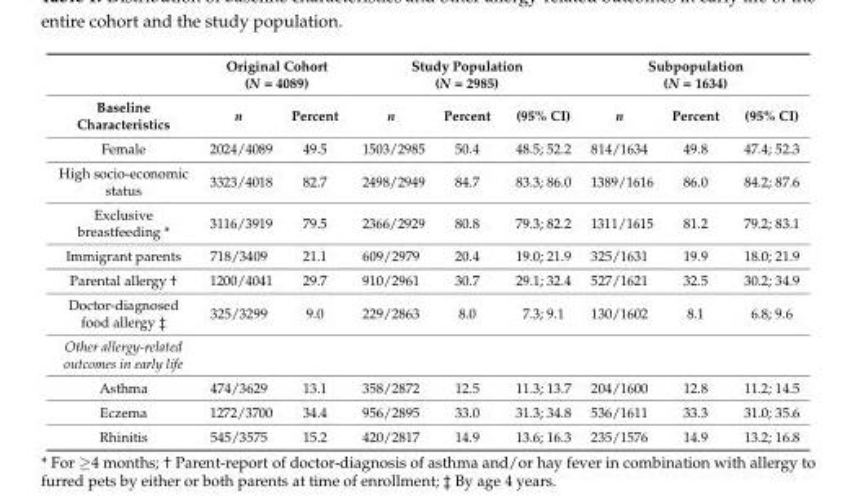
<table><thead><tr><td rowspan="2">Baseline Characteristics</td><td colspan="2">Original Cohort (N = 4089)</td><td colspan="3">Study Population (N = 2985)</td><td colspan="3">Subpopulation (N = 1634)</td></tr><tr><td>n</td><td>Percent</td><td>n</td><td>Percent</td><td>(95% CI)</td><td>n</td><td>Percent</td><td>(95% CI)</td></tr></thead><tbody><tr><td>Female</td><td>2024/4089</td><td>49.5</td><td>1503/2985</td><td>50.4</td><td>48.5; 52.2</td><td>814/1634</td><td>49.8</td><td>47.4; 52.3</td></tr><tr><td>High socio-economic status</td><td>3323/4018</td><td>82.7</td><td>2498/2949</td><td>84.7</td><td>83.3; 86.0</td><td>1389/1616</td><td>86.0</td><td>84.2; 87.6</td></tr><tr><td>Exclusive breastfeeding *</td><td>3116/3919</td><td>79.5</td><td>2366/2929</td><td>80.8</td><td>79.3; 82.2</td><td>1311/1615</td><td>81.2</td><td>79.2; 83.1</td></tr><tr><td>Immigrant parents</td><td>718/3409</td><td>21.1</td><td>609/2979</td><td>20.4</td><td>19.0; 21.9</td><td>325/1631</td><td>19.9</td><td>18.0; 21.9</td></tr><tr><td>Parental allergy †</td><td>1200/4041</td><td>29.7</td><td>910/2961</td><td>30.7</td><td>29.1; 32.4</td><td>527/1621</td><td>32.5</td><td>30.2; 34.9</td></tr><tr><td>Doctor-diagnosed food allergy ‡</td><td>325/3299</td><td>9.0</td><td>229/2863</td><td>8.0</td><td>7.3; 9.1</td><td>130/1602</td><td>8.1</td><td>6.8; 9.6</td></tr><tr><td colspan="9">Other allergy-related outcomes in early life</td></tr><tr><td>Asthma</td><td>474/3629</td><td>13.1</td><td>358/2872</td><td>12.5</td><td>11.3; 13.7</td><td>204/1600</td><td>12.8</td><td>11.2; 14.5</td></tr><tr><td>Eczema</td><td>1272/3700</td><td>34.4</td><td>956/2895</td><td>33.0</td><td>31.3; 34.8</td><td>536/1611</td><td>33.3</td><td>31.0; 35.6</td></tr><tr><td>Rhinitis</td><td>545/3575</td><td>15.2</td><td>420/2817</td><td>14.9</td><td>13.6; 16.3</td><td>235/1576</td><td>14.9</td><td>13.2; 16.8</td></tr></tbody></table>